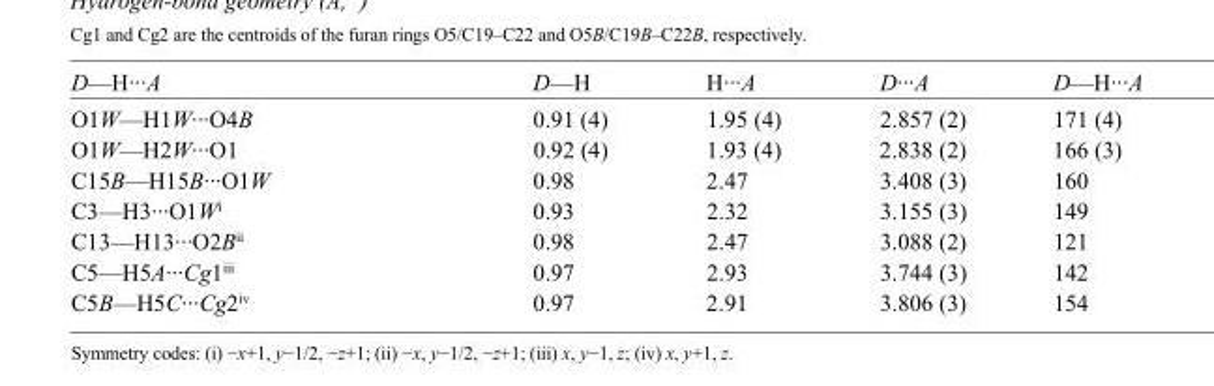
<table><tbody><tr><td>D—H···A</td><td>D—H</td><td>H···A</td><td>D···A</td><td>D—H···A</td></tr><tr><td>O1W—H1W···O4B</td><td>0.91 (4)</td><td>1.95 (4)</td><td>2.857 (2)</td><td>171 (4)</td></tr><tr><td>O1W—H2W···O1</td><td>0.92 (4)</td><td>1.93 (4)</td><td>2.838 (2)</td><td>166 (3)</td></tr><tr><td>C15B—H15B···O1W</td><td>0.98</td><td>2.47</td><td>3.408 (3)</td><td>160</td></tr><tr><td>C3—H3···O1W<sup>i</sup></td><td>0.93</td><td>2.32</td><td>3.155 (3)</td><td>149</td></tr><tr><td>C13—H13···O2B<sup>ii</sup></td><td>0.98</td><td>2.47</td><td>3.088 (2)</td><td>121</td></tr><tr><td>C5—H5A···Cg1<sup>iii</sup></td><td>0.97</td><td>2.93</td><td>3.744 (3)</td><td>142</td></tr><tr><td>C5B—H5C···Cg2<sup>iv</sup></td><td>0.97</td><td>2.91</td><td>3.806 (3)</td><td>154</td></tr></tbody></table>